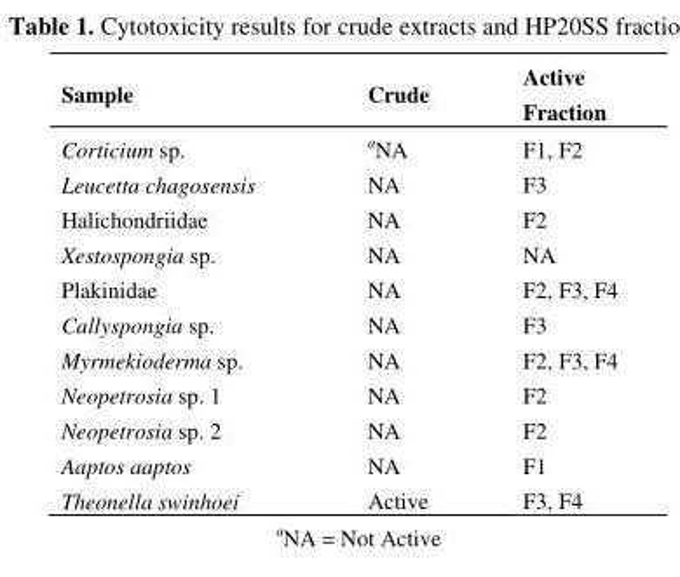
<table><thead><tr><td>Sample</td><td>Crude</td><td>Active Fraction</td></tr></thead><tbody><tr><td>Corticium sp.</td><td><sup>a</sup>NA</td><td>F1, F2</td></tr><tr><td>Leucetta chagosensis</td><td>NA</td><td>F3</td></tr><tr><td>Halichondriidae</td><td>NA</td><td>F2</td></tr><tr><td>Xestospongia sp.</td><td>NA</td><td>NA</td></tr><tr><td>Plakinidae</td><td>NA</td><td>F2, F3, F4</td></tr><tr><td>Callyspongia sp.</td><td>NA</td><td>F3</td></tr><tr><td>Myrmekioderma sp.</td><td>NA</td><td>F2, F3, F4</td></tr><tr><td>Neopetrosia sp. 1</td><td>NA</td><td>F2</td></tr><tr><td>Neopetrosia sp. 2</td><td>NA</td><td>F2</td></tr><tr><td>Aaptos aaptos</td><td>NA</td><td>F1</td></tr><tr><td>Theonella swinhoei</td><td>Active</td><td>F3, F4</td></tr></tbody></table>